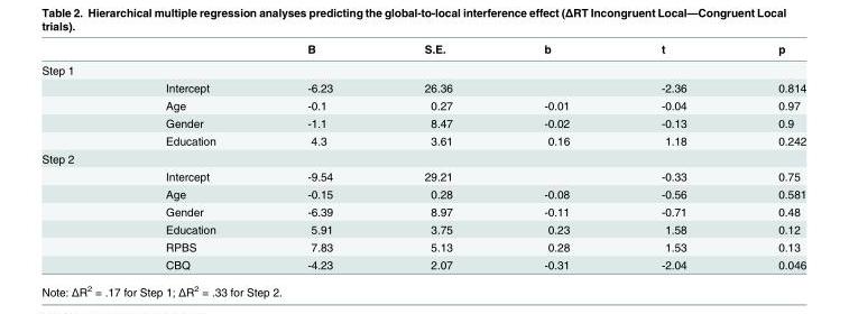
<table><thead><tr><td></td><td></td><td>B</td><td>S.E.</td><td>b</td><td>t</td><td>p</td></tr></thead><tbody><tr><td colspan="7">Step 1</td></tr><tr><td></td><td>Intercept</td><td>-6.23</td><td>26.36</td><td></td><td>-2.36</td><td>0.814</td></tr><tr><td></td><td>Age</td><td>-0.1</td><td>0.27</td><td>-0.01</td><td>-0.04</td><td>0.97</td></tr><tr><td></td><td>Gender</td><td>-1.1</td><td>8.47</td><td>-0.02</td><td>-0.13</td><td>0.9</td></tr><tr><td></td><td>Education</td><td>4.3</td><td>3.61</td><td>0.16</td><td>1.18</td><td>0.242</td></tr><tr><td colspan="7">Step 2</td></tr><tr><td></td><td>Intercept</td><td>-9.54</td><td>29.21</td><td></td><td>-0.33</td><td>0.75</td></tr><tr><td></td><td>Age</td><td>-0.15</td><td>0.28</td><td>-0.08</td><td>-0.56</td><td>0.581</td></tr><tr><td></td><td>Gender</td><td>-6.39</td><td>8.97</td><td>-0.11</td><td>-0.71</td><td>0.48</td></tr><tr><td></td><td>Education</td><td>5.91</td><td>3.75</td><td>0.23</td><td>1.58</td><td>0.12</td></tr><tr><td></td><td>RPBS</td><td>7.83</td><td>5.13</td><td>0.28</td><td>1.53</td><td>0.13</td></tr><tr><td></td><td>CBQ</td><td>-4.23</td><td>2.07</td><td>-0.31</td><td>-2.04</td><td>0.046</td></tr></tbody></table>